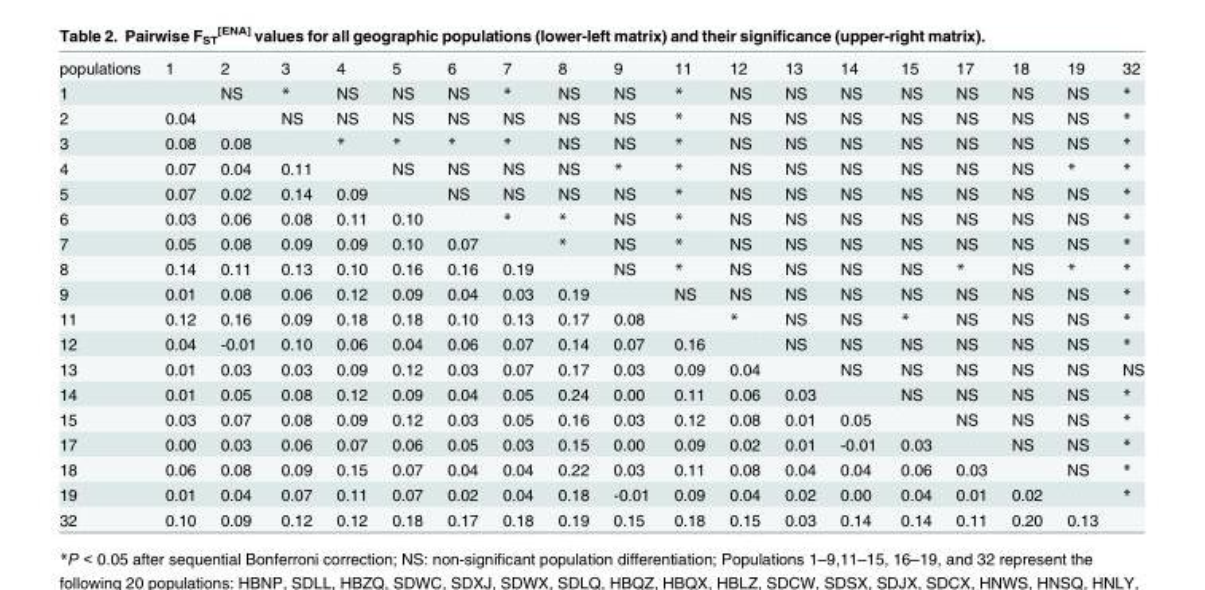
<table><tbody><tr><td>populations</td><td>1</td><td>2</td><td>3</td><td>4</td><td>5</td><td>6</td><td>7</td><td>8</td><td>9</td><td>11</td><td>12</td><td>13</td><td>14</td><td>15</td><td>17</td><td>18</td><td>19</td><td>32</td></tr><tr><td>1</td><td></td><td>NS</td><td>*</td><td>NS</td><td>NS</td><td>NS</td><td>*</td><td>NS</td><td>NS</td><td>*</td><td>NS</td><td>NS</td><td>NS</td><td>NS</td><td>NS</td><td>NS</td><td>NS</td><td>*</td></tr><tr><td>2</td><td>0.04</td><td></td><td>NS</td><td>NS</td><td>NS</td><td>NS</td><td>NS</td><td>NS</td><td>NS</td><td>*</td><td>NS</td><td>NS</td><td>NS</td><td>NS</td><td>NS</td><td>NS</td><td>NS</td><td>*</td></tr><tr><td>3</td><td>0.08</td><td>0.08</td><td></td><td>*</td><td>*</td><td>*</td><td>*</td><td>NS</td><td>NS</td><td>*</td><td>NS</td><td>NS</td><td>NS</td><td>NS</td><td>NS</td><td>NS</td><td>NS</td><td>*</td></tr><tr><td>4</td><td>0.07</td><td>0.04</td><td>0.11</td><td></td><td>NS</td><td>NS</td><td>NS</td><td>NS</td><td>*</td><td>*</td><td>NS</td><td>NS</td><td>NS</td><td>NS</td><td>NS</td><td>NS</td><td>*</td><td>*</td></tr><tr><td>5</td><td>0.07</td><td>0.02</td><td>0.14</td><td>0.09</td><td></td><td>NS</td><td>NS</td><td>NS</td><td>NS</td><td>*</td><td>NS</td><td>NS</td><td>NS</td><td>NS</td><td>NS</td><td>NS</td><td>NS</td><td>*</td></tr><tr><td>6</td><td>0.03</td><td>0.06</td><td>0.08</td><td>0.11</td><td>0.10</td><td></td><td>*</td><td>*</td><td>NS</td><td>*</td><td>NS</td><td>NS</td><td>NS</td><td>NS</td><td>NS</td><td>NS</td><td>NS</td><td>*</td></tr><tr><td>7</td><td>0.05</td><td>0.08</td><td>0.09</td><td>0.09</td><td>0.10</td><td>0.07</td><td></td><td>*</td><td>NS</td><td>*</td><td>NS</td><td>NS</td><td>NS</td><td>NS</td><td>NS</td><td>NS</td><td>NS</td><td>*</td></tr><tr><td>8</td><td>0.14</td><td>0.11</td><td>0.13</td><td>0.10</td><td>0.16</td><td>0.16</td><td>0.19</td><td></td><td>NS</td><td>*</td><td>NS</td><td>NS</td><td>NS</td><td>NS</td><td>*</td><td>NS</td><td>*</td><td>*</td></tr><tr><td>9</td><td>0.01</td><td>0.08</td><td>0.06</td><td>0.12</td><td>0.09</td><td>0.04</td><td>0.03</td><td>0.19</td><td></td><td>NS</td><td>NS</td><td>NS</td><td>NS</td><td>NS</td><td>NS</td><td>NS</td><td>NS</td><td>*</td></tr><tr><td>11</td><td>0.12</td><td>0.16</td><td>0.09</td><td>0.18</td><td>0.18</td><td>0.10</td><td>0.13</td><td>0.17</td><td>0.08</td><td></td><td>*</td><td>NS</td><td>NS</td><td>*</td><td>NS</td><td>NS</td><td>NS</td><td>*</td></tr><tr><td>12</td><td>0.04</td><td>-0.01</td><td>0.10</td><td>0.06</td><td>0.04</td><td>0.06</td><td>0.07</td><td>0.14</td><td>0.07</td><td>0.16</td><td></td><td>NS</td><td>NS</td><td>NS</td><td>NS</td><td>NS</td><td>NS</td><td>*</td></tr><tr><td>13</td><td>0.01</td><td>0.03</td><td>0.03</td><td>0.09</td><td>0.12</td><td>0.03</td><td>0.07</td><td>0.17</td><td>0.03</td><td>0.09</td><td>0.04</td><td></td><td>NS</td><td>NS</td><td>NS</td><td>NS</td><td>NS</td><td>NS</td></tr><tr><td>14</td><td>0.01</td><td>0.05</td><td>0.08</td><td>0.12</td><td>0.09</td><td>0.04</td><td>0.05</td><td>0.24</td><td>0.00</td><td>0.11</td><td>0.06</td><td>0.03</td><td></td><td>NS</td><td>NS</td><td>NS</td><td>NS</td><td>*</td></tr><tr><td>15</td><td>0.03</td><td>0.07</td><td>0.08</td><td>0.09</td><td>0.12</td><td>0.03</td><td>0.05</td><td>0.16</td><td>0.03</td><td>0.12</td><td>0.08</td><td>0.01</td><td>0.05</td><td></td><td>NS</td><td>NS</td><td>NS</td><td>*</td></tr><tr><td>17</td><td>0.00</td><td>0.03</td><td>0.06</td><td>0.07</td><td>0.06</td><td>0.05</td><td>0.03</td><td>0.15</td><td>0.00</td><td>0.09</td><td>0.02</td><td>0.01</td><td>-0.01</td><td>0.03</td><td></td><td>NS</td><td>NS</td><td>*</td></tr><tr><td>18</td><td>0.06</td><td>0.08</td><td>0.09</td><td>0.15</td><td>0.07</td><td>0.04</td><td>0.04</td><td>0.22</td><td>0.03</td><td>0.11</td><td>0.08</td><td>0.04</td><td>0.04</td><td>0.06</td><td>0.03</td><td></td><td>NS</td><td>*</td></tr><tr><td>19</td><td>0.01</td><td>0.04</td><td>0.07</td><td>0.11</td><td>0.07</td><td>0.02</td><td>0.04</td><td>0.18</td><td>-0.01</td><td>0.09</td><td>0.04</td><td>0.02</td><td>0.00</td><td>0.04</td><td>0.01</td><td>0.02</td><td></td><td>*</td></tr><tr><td>32</td><td>0.10</td><td>0.09</td><td>0.12</td><td>0.12</td><td>0.18</td><td>0.17</td><td>0.18</td><td>0.19</td><td>0.15</td><td>0.18</td><td>0.15</td><td>0.03</td><td>0.14</td><td>0.14</td><td>0.11</td><td>0.20</td><td>0.13</td><td></td></tr></tbody></table>